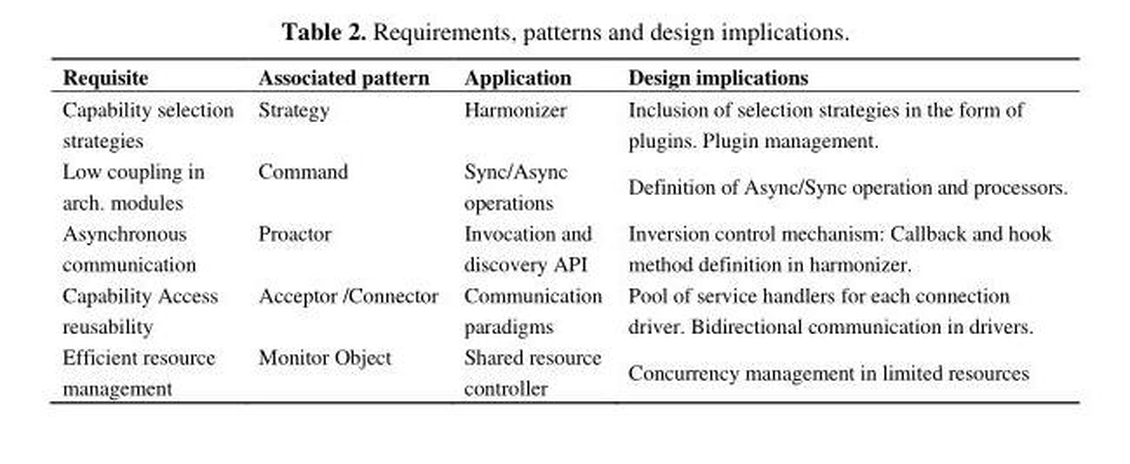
<table><thead><tr><td>Requisite</td><td>Associated pattern</td><td>Application</td><td>Design implications</td></tr></thead><tbody><tr><td>Capability selection strategies</td><td>Strategy</td><td>Harmonizer</td><td>Inclusion of selection strategies in the form of plugins. Plugin management.</td></tr><tr><td>Low coupling in arch. modules</td><td>Command</td><td>Sync/Async operations</td><td>Definition of Async/Sync operation and processors.</td></tr><tr><td>Asynchronous communication</td><td>Proactor</td><td>Invocation and discovery API</td><td>Inversion control mechanism: Callback and hook method definition in harmonizer.</td></tr><tr><td>Capability Access reusability</td><td>Acceptor /Connector</td><td>Communication paradigms</td><td>Pool of service handlers for each connection driver. Bidirectional communication in drivers.</td></tr><tr><td>Efficient resource management</td><td>Monitor Object</td><td>Shared resource controller</td><td>Concurrency management in limited resources</td></tr></tbody></table>